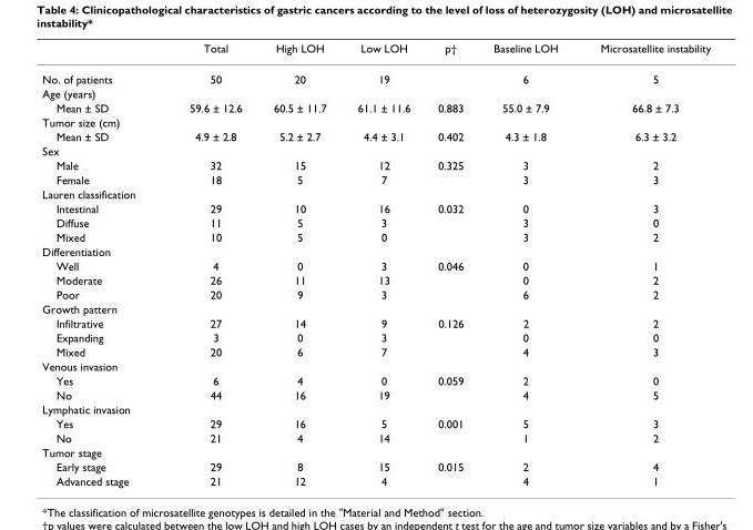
<table><thead><tr><td></td><td>Total</td><td>High LOH</td><td>Low LOH</td><td>p†</td><td>Baseline LOH</td><td>Microsatellite instability</td></tr></thead><tbody><tr><td>No. of patients</td><td>50</td><td>20</td><td>19</td><td></td><td>6</td><td>5</td></tr><tr><td colspan="7">Age (years)</td></tr><tr><td>Mean ± SD</td><td>59.6 ± 12.6</td><td>60.5 ± 11.7</td><td>61.1 ± 11.6</td><td>0.883</td><td>55.0 ± 7.9</td><td>66.8 ± 7.3</td></tr><tr><td colspan="7">Tumor size (cm)</td></tr><tr><td>Mean ± SD</td><td>4.9 ± 2.8</td><td>5.2 ± 2.7</td><td>4.4 ± 3.1</td><td>0.402</td><td>4.3 ± 1.8</td><td>6.3 ± 3.2</td></tr><tr><td colspan="7">Sex</td></tr><tr><td>Male</td><td>32</td><td>15</td><td>12</td><td>0.325</td><td>3</td><td>2</td></tr><tr><td>Female</td><td>18</td><td>5</td><td>7</td><td></td><td>3</td><td>3</td></tr><tr><td colspan="7">Lauren classification</td></tr><tr><td>Intestinal</td><td>29</td><td>10</td><td>16</td><td>0.032</td><td>0</td><td>3</td></tr><tr><td>Diffuse</td><td>11</td><td>5</td><td>3</td><td></td><td>3</td><td>0</td></tr><tr><td>Mixed</td><td>10</td><td>5</td><td>0</td><td></td><td>3</td><td>2</td></tr><tr><td colspan="7">Differentiation</td></tr><tr><td>Well</td><td>4</td><td>0</td><td>3</td><td>0.046</td><td>0</td><td>1</td></tr><tr><td>Moderate</td><td>26</td><td>11</td><td>13</td><td></td><td>0</td><td>2</td></tr><tr><td>Poor</td><td>20</td><td>9</td><td>3</td><td></td><td>6</td><td>2</td></tr><tr><td colspan="7">Growth pattern</td></tr><tr><td>Infiltrative</td><td>27</td><td>14</td><td>9</td><td>0.126</td><td>2</td><td>2</td></tr><tr><td>Expanding</td><td>3</td><td>0</td><td>3</td><td></td><td>0</td><td>0</td></tr><tr><td>Mixed</td><td>20</td><td>6</td><td>7</td><td></td><td>4</td><td>3</td></tr><tr><td colspan="7">Venous invasion</td></tr><tr><td>Yes</td><td>6</td><td>4</td><td>0</td><td>0.059</td><td>2</td><td>0</td></tr><tr><td>No</td><td>44</td><td>16</td><td>19</td><td></td><td>4</td><td>5</td></tr><tr><td colspan="7">Lymphatic invasion</td></tr><tr><td>Yes</td><td>29</td><td>16</td><td>5</td><td>0.001</td><td>5</td><td>3</td></tr><tr><td>No</td><td>21</td><td>4</td><td>14</td><td></td><td>1</td><td>2</td></tr><tr><td colspan="7">Tumor stage</td></tr><tr><td>Early stage</td><td>29</td><td>8</td><td>15</td><td>0.015</td><td>2</td><td>4</td></tr><tr><td>Advanced stage</td><td>21</td><td>12</td><td>4</td><td></td><td>4</td><td>1</td></tr></tbody></table>